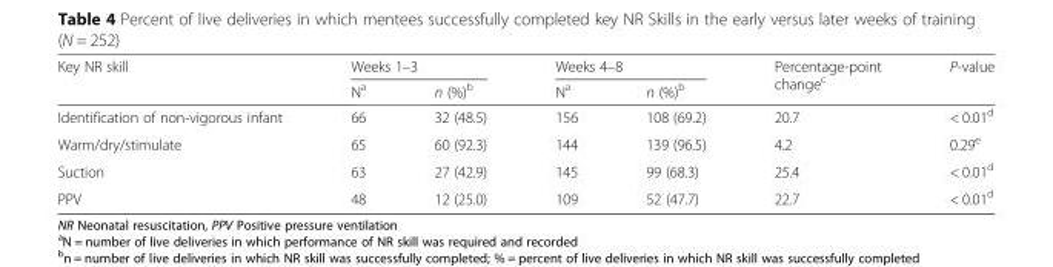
<table><thead><tr><td rowspan="2">Key NR skill</td><td colspan="2">Weeks 1–3</td><td colspan="2">Weeks 4–8</td><td rowspan="2">Percentage-point change<sup>c</sup></td><td rowspan="2">P-value</td></tr><tr><td>N<sup>a</sup></td><td>n (%)<sup>b</sup></td><td>N<sup>a</sup></td><td>n (%)<sup>b</sup></td></tr></thead><tbody><tr><td>Identification of non-vigorous infant</td><td>66</td><td>32 (48.5)</td><td>156</td><td>108 (69.2)</td><td>20.7</td><td>&lt; 0.01<sup>d</sup></td></tr><tr><td>Warm/dry/stimulate</td><td>65</td><td>60 (92.3)</td><td>144</td><td>139 (96.5)</td><td>4.2</td><td>0.29<sup>e</sup></td></tr><tr><td>Suction</td><td>63</td><td>27 (42.9)</td><td>145</td><td>99 (68.3)</td><td>25.4</td><td>&lt; 0.01<sup>d</sup></td></tr><tr><td>PPV</td><td>48</td><td>12 (25.0)</td><td>109</td><td>52 (47.7)</td><td>22.7</td><td>&lt; 0.01<sup>d</sup></td></tr></tbody></table>